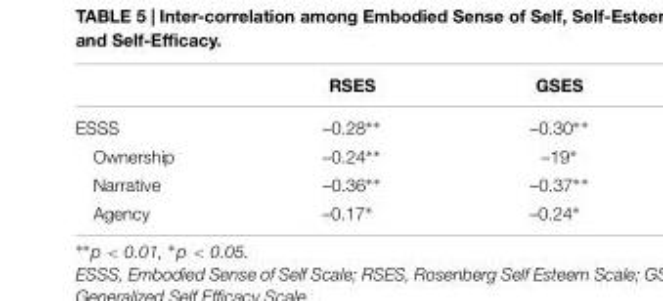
<table><thead><tr><td></td><td>RSES</td><td>GSES</td></tr></thead><tbody><tr><td>ESSS</td><td>–0.28∗∗</td><td>–0.30∗∗</td></tr><tr><td>Ownership</td><td>–0.24∗∗</td><td>–19∗</td></tr><tr><td>Narrative</td><td>–0.36∗∗</td><td>–0.37∗∗</td></tr><tr><td>Agency</td><td>–0.17∗</td><td>–0.24∗</td></tr></tbody></table>